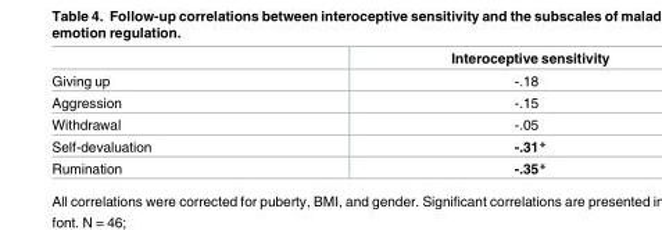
<table><thead><tr><td></td><td>Interoceptive sensitivity</td></tr></thead><tbody><tr><td>Giving up</td><td>-.18</td></tr><tr><td>Aggression</td><td>-.15</td></tr><tr><td>Withdrawal</td><td>-.05</td></tr><tr><td>Self-devaluation</td><td>-.31*</td></tr><tr><td>Rumination</td><td>-.35*</td></tr></tbody></table>